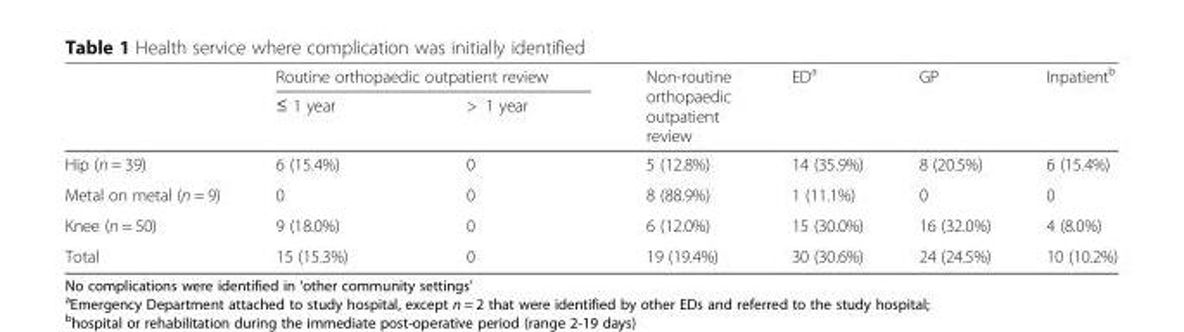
<table><thead><tr><td rowspan="2"></td><td colspan="2">Routine orthopaedic outpatient review</td><td rowspan="2">Non-routine orthopaedic outpatient review</td><td rowspan="2">ED<sup>a</sup></td><td rowspan="2">GP</td><td rowspan="2">Inpatient<sup>b</sup></td></tr><tr><td>≤ 1 year</td><td>&gt; 1 year</td></tr></thead><tbody><tr><td>Hip (n = 39)</td><td>6 (15.4%)</td><td>0</td><td>5 (12.8%)</td><td>14 (35.9%)</td><td>8 (20.5%)</td><td>6 (15.4%)</td></tr><tr><td>Metal on metal (n = 9)</td><td>0</td><td>0</td><td>8 (88.9%)</td><td>1 (11.1%)</td><td>0</td><td>0</td></tr><tr><td>Knee (n = 50)</td><td>9 (18.0%)</td><td>0</td><td>6 (12.0%)</td><td>15 (30.0%)</td><td>16 (32.0%)</td><td>4 (8.0%)</td></tr><tr><td>Total</td><td>15 (15.3%)</td><td>0</td><td>19 (19.4%)</td><td>30 (30.6%)</td><td>24 (24.5%)</td><td>10 (10.2%)</td></tr></tbody></table>